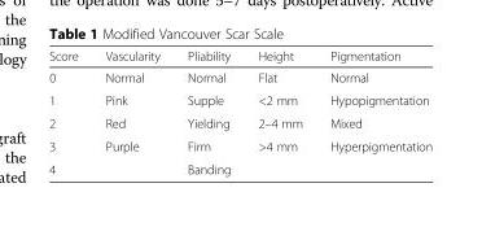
<table><thead><tr><td>Score</td><td>Vascularity</td><td>Pliability</td><td>Height</td><td>Pigmentation</td></tr></thead><tbody><tr><td>0</td><td>Normal</td><td>Normal</td><td>Flat</td><td>Normal</td></tr><tr><td>1</td><td>Pink</td><td>Supple</td><td>&lt;2 mm</td><td>Hypopigmentation</td></tr><tr><td>2</td><td>Red</td><td>Yielding</td><td>2–4 mm</td><td>Mixed</td></tr><tr><td>3</td><td>Purple</td><td>Firm</td><td>&gt;4 mm</td><td>Hyperpigmentation</td></tr><tr><td>4</td><td></td><td>Banding</td><td></td><td></td></tr></tbody></table>